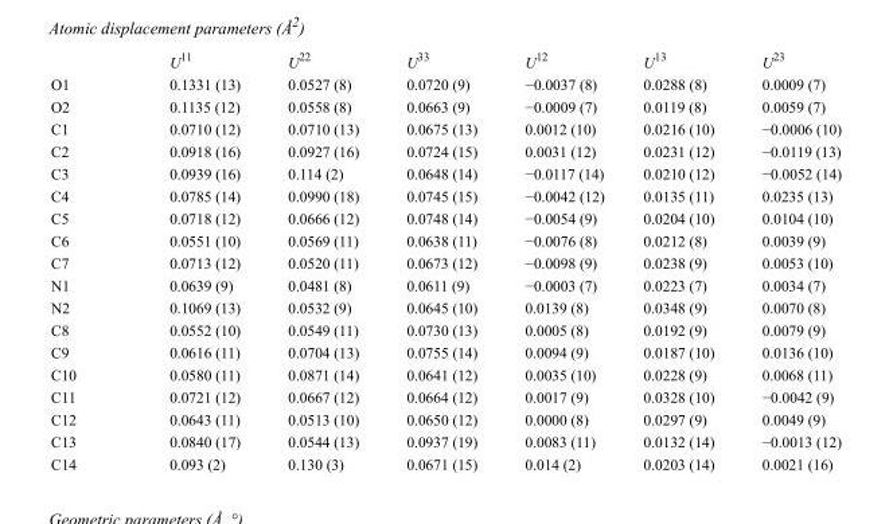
<table><thead><tr><td></td><td>U<sup>11</sup></td><td>U<sup>22</sup></td><td>U<sup>33</sup></td><td>U<sup>12</sup></td><td>U<sup>13</sup></td><td>U<sup>23</sup></td></tr></thead><tbody><tr><td>O1</td><td>0.1331 (13)</td><td>0.0527 (8)</td><td>0.0720 (9)</td><td>−0.0037 (8)</td><td>0.0288 (8)</td><td>0.0009 (7)</td></tr><tr><td>O2</td><td>0.1135 (12)</td><td>0.0558 (8)</td><td>0.0663 (9)</td><td>−0.0009 (7)</td><td>0.0119 (8)</td><td>0.0059 (7)</td></tr><tr><td>C1</td><td>0.0710 (12)</td><td>0.0710 (13)</td><td>0.0675 (13)</td><td>0.0012 (10)</td><td>0.0216 (10)</td><td>−0.0006 (10)</td></tr><tr><td>C2</td><td>0.0918 (16)</td><td>0.0927 (16)</td><td>0.0724 (15)</td><td>0.0031 (12)</td><td>0.0231 (12)</td><td>−0.0119 (13)</td></tr><tr><td>C3</td><td>0.0939 (16)</td><td>0.114 (2)</td><td>0.0648 (14)</td><td>−0.0117 (14)</td><td>0.0210 (12)</td><td>−0.0052 (14)</td></tr><tr><td>C4</td><td>0.0785 (14)</td><td>0.0990 (18)</td><td>0.0745 (15)</td><td>−0.0042 (12)</td><td>0.0135 (11)</td><td>0.0235 (13)</td></tr><tr><td>C5</td><td>0.0718 (12)</td><td>0.0666 (12)</td><td>0.0748 (14)</td><td>−0.0054 (9)</td><td>0.0204 (10)</td><td>0.0104 (10)</td></tr><tr><td>C6</td><td>0.0551 (10)</td><td>0.0569 (11)</td><td>0.0638 (11)</td><td>−0.0076 (8)</td><td>0.0212 (8)</td><td>0.0039 (9)</td></tr><tr><td>C7</td><td>0.0713 (12)</td><td>0.0520 (11)</td><td>0.0673 (12)</td><td>−0.0098 (9)</td><td>0.0238 (9)</td><td>0.0053 (10)</td></tr><tr><td>N1</td><td>0.0639 (9)</td><td>0.0481 (8)</td><td>0.0611 (9)</td><td>−0.0003 (7)</td><td>0.0223 (7)</td><td>0.0034 (7)</td></tr><tr><td>N2</td><td>0.1069 (13)</td><td>0.0532 (9)</td><td>0.0645 (10)</td><td>0.0139 (8)</td><td>0.0348 (9)</td><td>0.0070 (8)</td></tr><tr><td>C8</td><td>0.0552 (10)</td><td>0.0549 (11)</td><td>0.0730 (13)</td><td>0.0005 (8)</td><td>0.0192 (9)</td><td>0.0079 (9)</td></tr><tr><td>C9</td><td>0.0616 (11)</td><td>0.0704 (13)</td><td>0.0755 (14)</td><td>0.0094 (9)</td><td>0.0187 (10)</td><td>0.0136 (10)</td></tr><tr><td>C10</td><td>0.0580 (11)</td><td>0.0871 (14)</td><td>0.0641 (12)</td><td>0.0035 (10)</td><td>0.0228 (9)</td><td>0.0068 (11)</td></tr><tr><td>C11</td><td>0.0721 (12)</td><td>0.0667 (12)</td><td>0.0664 (12)</td><td>0.0017 (9)</td><td>0.0328 (10)</td><td>−0.0042 (9)</td></tr><tr><td>C12</td><td>0.0643 (11)</td><td>0.0513 (10)</td><td>0.0650 (12)</td><td>0.0000 (8)</td><td>0.0297 (9)</td><td>0.0049 (9)</td></tr><tr><td>C13</td><td>0.0840 (17)</td><td>0.0544 (13)</td><td>0.0937 (19)</td><td>0.0083 (11)</td><td>0.0132 (14)</td><td>−0.0013 (12)</td></tr><tr><td>C14</td><td>0.093 (2)</td><td>0.130 (3)</td><td>0.0671 (15)</td><td>0.014 (2)</td><td>0.0203 (14)</td><td>0.0021 (16)</td></tr></tbody></table>